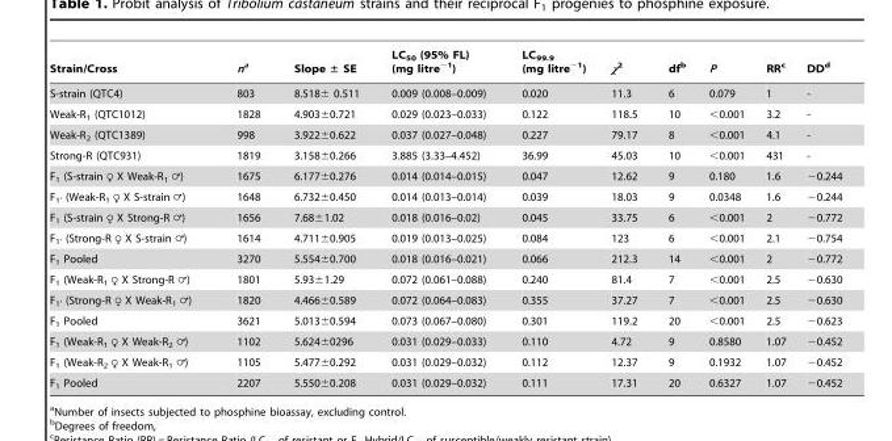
<table><thead><tr><td>Strain/Cross</td><td>na</td><td>Slope ± SE</td><td>LC<sub>50</sub> (95% FL) (mg litre<sup>−1</sup>)</td><td>LC<sub>99.9</sub> (mg litre<sup>−1</sup>)</td><td>χ<sup>2</sup></td><td>df<sup>b</sup></td><td>P</td><td>RR<sup>c</sup></td><td>DD<sup>d</sup></td></tr></thead><tbody><tr><td>S-strain (QTC4)</td><td>803</td><td>8.518± 0.511</td><td>0.009 (0.008–0.009)</td><td>0.020</td><td>11.3</td><td>6</td><td>0.079</td><td>1</td><td>-</td></tr><tr><td>Weak-R<sub>1</sub> (QTC1012)</td><td>1828</td><td>4.903±0.721</td><td>0.029 (0.023–0.033)</td><td>0.122</td><td>118.5</td><td>10</td><td>&lt;0.001</td><td>3.2</td><td>-</td></tr><tr><td>Weak-R<sub>2</sub> (QTC1389)</td><td>998</td><td>3.922±0.622</td><td>0.037 (0.027–0.048)</td><td>0.227</td><td>79.17</td><td>8</td><td>&lt;0.001</td><td>4.1</td><td>-</td></tr><tr><td>Strong-R (QTC931)</td><td>1819</td><td>3.158±0.266</td><td>3.885 (3.33–4.452)</td><td>36.99</td><td>45.03</td><td>10</td><td>&lt;0.001</td><td>431</td><td>-</td></tr><tr><td>F1 (S-strain R X Weak-R1 =)</td><td>1675</td><td>6.177±0.276</td><td>0.014 (0.014–0.015)</td><td>0.047</td><td>12.62</td><td>9</td><td>0.180</td><td>1.6</td><td>−0.244</td></tr><tr><td>F1’ (Weak-R1 R X S-strain =)</td><td>1648</td><td>6.732±0.450</td><td>0.014 (0.013–0.014)</td><td>0.039</td><td>18.03</td><td>9</td><td>0.0348</td><td>1.6</td><td>−0.244</td></tr><tr><td>F1 (S-strain R X Strong-R =)</td><td>1656</td><td>7.68±1.02</td><td>0.018 (0.016–0.02)</td><td>0.045</td><td>33.75</td><td>6</td><td>&lt;0.001</td><td>2</td><td>−0.772</td></tr><tr><td>F1’ (Strong-R R X S-strain =)</td><td>1614</td><td>4.711±0.905</td><td>0.019 (0.013–0.025)</td><td>0.084</td><td>123</td><td>6</td><td>&lt;0.001</td><td>2.1</td><td>−0.754</td></tr><tr><td>F<sub>1</sub> Pooled</td><td>3270</td><td>5.554±0.700</td><td>0.018 (0.016–0.021)</td><td>0.066</td><td>212.3</td><td>14</td><td>&lt;0.001</td><td>2</td><td>−0.772</td></tr><tr><td>F1 (Weak-R1 R X Strong-R =)</td><td>1801</td><td>5.93±1.29</td><td>0.072 (0.061–0.088)</td><td>0.240</td><td>81.4</td><td>7</td><td>&lt;0.001</td><td>2.5</td><td>−0.630</td></tr><tr><td>F1’ (Strong-R R X Weak-R1 =)</td><td>1820</td><td>4.466±0.589</td><td>0.072 (0.064–0.083)</td><td>0.355</td><td>37.27</td><td>7</td><td>&lt;0.001</td><td>2.5</td><td>−0.630</td></tr><tr><td>F<sub>1</sub> Pooled</td><td>3621</td><td>5.013±0.594</td><td>0.073 (0.067–0.080)</td><td>0.301</td><td>119.2</td><td>20</td><td>&lt;0.001</td><td>2.5</td><td>−0.623</td></tr><tr><td>F1 (Weak-R1 R X Weak-R2 =)</td><td>1102</td><td>5.624±0296</td><td>0.031 (0.029–0.033)</td><td>0.110</td><td>4.72</td><td>9</td><td>0.8580</td><td>1.07</td><td>−0.452</td></tr><tr><td>F1 (Weak-R2 R X Weak-R1 =)</td><td>1105</td><td>5.477±0.292</td><td>0.031 (0.029–0.032)</td><td>0.112</td><td>12.37</td><td>9</td><td>0.1932</td><td>1.07</td><td>−0.452</td></tr><tr><td>F<sub>1</sub> Pooled</td><td>2207</td><td>5.550±0.208</td><td>0.031 (0.029–0.032)</td><td>0.111</td><td>17.31</td><td>20</td><td>0.6327</td><td>1.07</td><td>−0.452</td></tr></tbody></table>